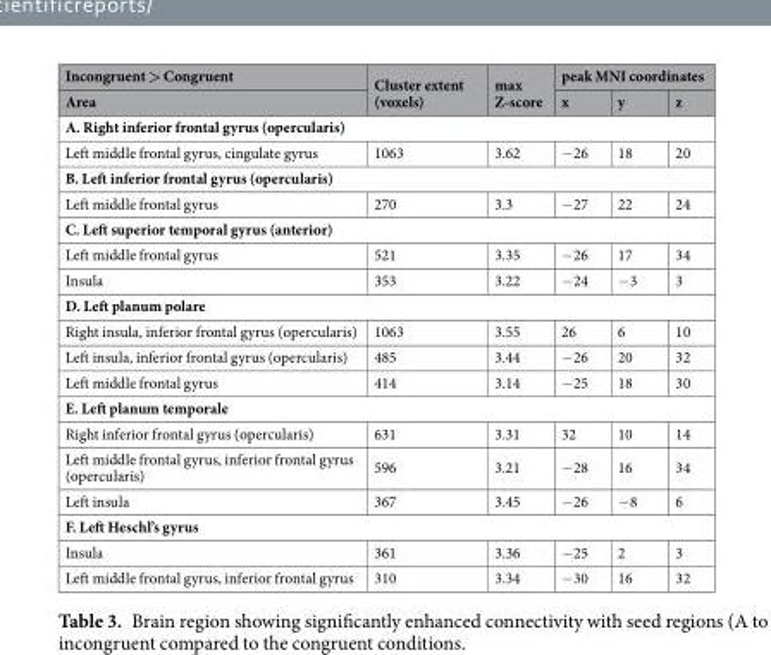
<table><thead><tr><td rowspan="2">Incongruent &gt; Congruent Area</td><td rowspan="2">Cluster extent (voxels)</td><td rowspan="2">max Z-score</td><td colspan="3">peak MNI coordinates</td></tr><tr><td>x</td><td>y</td><td>z</td></tr></thead><tbody><tr><td colspan="6">A. Right inferior frontal gyrus (opercularis)</td></tr><tr><td>Left middle frontal gyrus, cingulate gyrus</td><td>1063</td><td>3.62</td><td>−26</td><td>18</td><td>20</td></tr><tr><td colspan="6">B. Left inferior frontal gyrus (opercularis)</td></tr><tr><td>Left middle frontal gyrus</td><td>270</td><td>3.3</td><td>−27</td><td>22</td><td>24</td></tr><tr><td colspan="6">C. Left superior temporal gyrus (anterior)</td></tr><tr><td>Left middle frontal gyrus</td><td>521</td><td>3.35</td><td>−26</td><td>17</td><td>34</td></tr><tr><td>Insula</td><td>353</td><td>3.22</td><td>−24</td><td>−3</td><td>3</td></tr><tr><td colspan="6">D. Left planum polare</td></tr><tr><td>Right insula, inferior frontal gyrus (opercularis)</td><td>1063</td><td>3.55</td><td>26</td><td>6</td><td>10</td></tr><tr><td>Left insula, inferior frontal gyrus (opercularis)</td><td>485</td><td>3.44</td><td>−26</td><td>20</td><td>32</td></tr><tr><td>Left middle frontal gyrus</td><td>414</td><td>3.14</td><td>−25</td><td>18</td><td>30</td></tr><tr><td colspan="6">E. Left planum temporale</td></tr><tr><td>Right inferior frontal gyrus (opercularis)</td><td>631</td><td>3.31</td><td>32</td><td>10</td><td>14</td></tr><tr><td>Left middle frontal gyrus, inferior frontal gyrus (opercularis)</td><td>596</td><td>3.21</td><td>−28</td><td>16</td><td>34</td></tr><tr><td>Left insula</td><td>367</td><td>3.45</td><td>−26</td><td>−8</td><td>6</td></tr><tr><td colspan="6">F. Left Heschl’s gyrus</td></tr><tr><td>Insula</td><td>361</td><td>3.36</td><td>−25</td><td>2</td><td>3</td></tr><tr><td>Left middle frontal gyrus, inferior frontal gyrus</td><td>310</td><td>3.34</td><td>−30</td><td>16</td><td>32</td></tr></tbody></table>